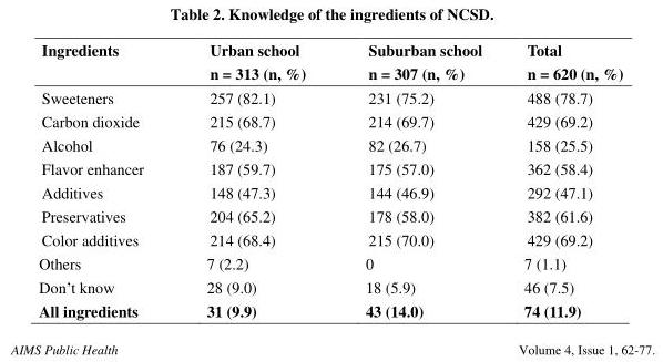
<table><thead><tr><td>Ingredients</td><td>Urban school n = 313 (n, %)</td><td>Suburban school n = 307 (n, %)</td><td>Total n = 620 (n, %)</td></tr></thead><tbody><tr><td>Sweeteners</td><td>257 (82.1)</td><td>231 (75.2)</td><td>488 (78.7)</td></tr><tr><td>Carbon dioxide</td><td>215 (68.7)</td><td>214 (69.7)</td><td>429 (69.2)</td></tr><tr><td>Alcohol</td><td>76 (24.3)</td><td>82 (26.7)</td><td>158 (25.5)</td></tr><tr><td>Flavor enhancer</td><td>187 (59.7)</td><td>175 (57.0)</td><td>362 (58.4)</td></tr><tr><td>Additives</td><td>148 (47.3)</td><td>144 (46.9)</td><td>292 (47.1)</td></tr><tr><td>Preservatives</td><td>204 (65.2)</td><td>178 (58.0)</td><td>382 (61.6)</td></tr><tr><td>Color additives</td><td>214 (68.4)</td><td>215 (70.0)</td><td>429 (69.2)</td></tr><tr><td>Others</td><td>7 (2.2)</td><td>0</td><td>7 (1.1)</td></tr><tr><td>Don’t know</td><td>28 (9.0)</td><td>18 (5.9)</td><td>46 (7.5)</td></tr><tr><td>All ingredients</td><td>31 (9.9)</td><td>43 (14.0)</td><td>74 (11.9)</td></tr></tbody></table>